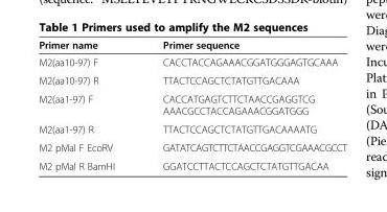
<table><thead><tr><td>Primer name</td><td>Primer sequence</td></tr></thead><tbody><tr><td>M2(aa10-97) F</td><td>CACCTACCAGAAACGGATGGGAGTGCAAA</td></tr><tr><td>M2(aa10-97) R</td><td>TTACTCCAGCTCTATGTTGACAAA</td></tr><tr><td>M2(aa1-97) F</td><td>CACCATGAGTCTTCTAACCGAGGTCG AAACGCCTACCAGAAACGGATGGG</td></tr><tr><td>M2(aa1-97) R</td><td>TTACTCCAGCTCTATGTTGACAAAATG</td></tr><tr><td>M2 pMal F EcoRV</td><td>GATATCAGTCTTCTAACCGAGGTCGAAACGCCT</td></tr><tr><td>M2 pMal R BamHI</td><td>GGATCCTTACTCCAGCTCTATGTTGACAA</td></tr></tbody></table>